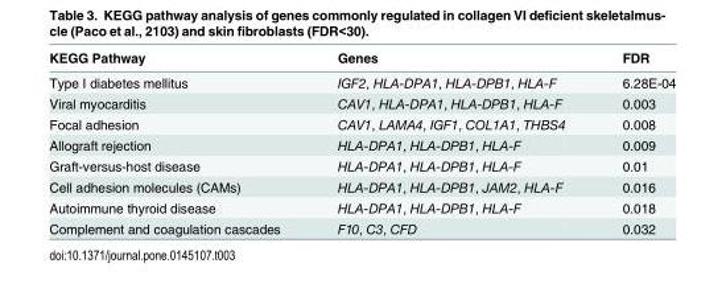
<table><thead><tr><td>KEGG Pathway</td><td>Genes</td><td>FDR</td></tr></thead><tbody><tr><td>Type I diabetes mellitus</td><td>IGF2, HLA-DPA1, HLA-DPB1, HLA-F</td><td>6.28E-04</td></tr><tr><td>Viral myocarditis</td><td>CAV1, HLA-DPA1, HLA-DPB1, HLA-F</td><td>0.003</td></tr><tr><td>Focal adhesion</td><td>CAV1, LAMA4, IGF1, COL1A1, THBS4</td><td>0.008</td></tr><tr><td>Allograft rejection</td><td>HLA-DPA1, HLA-DPB1, HLA-F</td><td>0.009</td></tr><tr><td>Graft-versus-host disease</td><td>HLA-DPA1, HLA-DPB1, HLA-F</td><td>0.01</td></tr><tr><td>Cell adhesion molecules (CAMs)</td><td>HLA-DPA1, HLA-DPB1, JAM2, HLA-F</td><td>0.016</td></tr><tr><td>Autoimmune thyroid disease</td><td>HLA-DPA1, HLA-DPB1, HLA-F</td><td>0.018</td></tr><tr><td>Complement and coagulation cascades</td><td>F10, C3, CFD</td><td>0.032</td></tr></tbody></table>